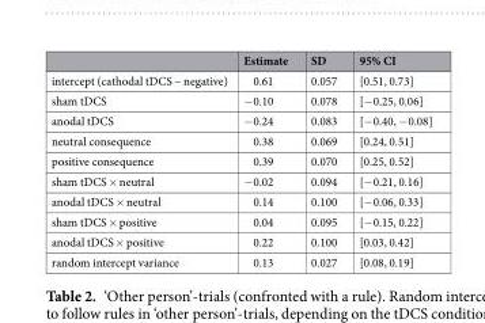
<table><thead><tr><td></td><td>Estimate</td><td>SD</td><td>95% CI</td></tr></thead><tbody><tr><td>intercept (cathodal tDCS – negative)</td><td>0.61</td><td>0.057</td><td>[0.51, 0.73]</td></tr><tr><td>sham tDCS</td><td>−0.10</td><td>0.078</td><td>[−0.25, 0.06]</td></tr><tr><td>anodal tDCS</td><td>−0.24</td><td>0.083</td><td>[−0.40, −0.08]</td></tr><tr><td>neutral consequence</td><td>0.38</td><td>0.069</td><td>[0.24, 0.51]</td></tr><tr><td>positive consequence</td><td>0.39</td><td>0.070</td><td>[0.25, 0.52]</td></tr><tr><td>sham tDCS × neutral</td><td>−0.02</td><td>0.094</td><td>[−0.21, 0.16]</td></tr><tr><td>anodal tDCS × neutral</td><td>0.14</td><td>0.100</td><td>[−0.06, 0.33]</td></tr><tr><td>sham tDCS × positive</td><td>0.04</td><td>0.095</td><td>[−0.15, 0.22]</td></tr><tr><td>anodal tDCS × positive</td><td>0.22</td><td>0.100</td><td>[0.03, 0.42]</td></tr><tr><td>random intercept variance</td><td>0.13</td><td>0.027</td><td>[0.08, 0.19]</td></tr></tbody></table>